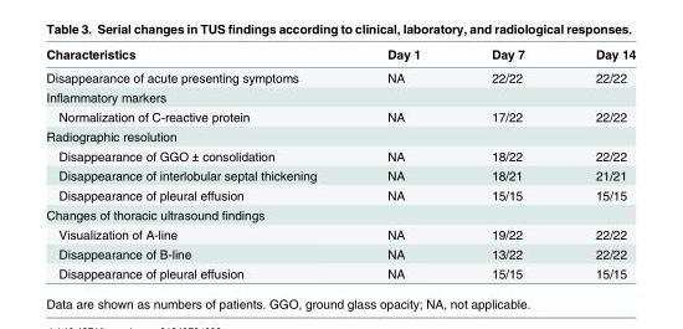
<table><thead><tr><td>Characteristics</td><td>Day 1</td><td>Day 7</td><td>Day 14</td></tr></thead><tbody><tr><td>Disappearance of acute presenting symptoms</td><td>NA</td><td>22/22</td><td>22/22</td></tr><tr><td colspan="4">Inflammatory markers</td></tr><tr><td>Normalization of C-reactive protein</td><td>NA</td><td>17/22</td><td>22/22</td></tr><tr><td colspan="4">Radiographic resolution</td></tr><tr><td>Disappearance of GGO ± consolidation</td><td>NA</td><td>18/22</td><td>22/22</td></tr><tr><td>Disappearance of interlobular septal thickening</td><td>NA</td><td>18/21</td><td>21/21</td></tr><tr><td>Disappearance of pleural effusion</td><td>NA</td><td>15/15</td><td>15/15</td></tr><tr><td colspan="4">Changes of thoracic ultrasound findings</td></tr><tr><td>Visualization of A-line</td><td>NA</td><td>19/22</td><td>22/22</td></tr><tr><td>Disappearance of B-line</td><td>NA</td><td>13/22</td><td>22/22</td></tr><tr><td>Disappearance of pleural effusion</td><td>NA</td><td>15/15</td><td>15/15</td></tr></tbody></table>